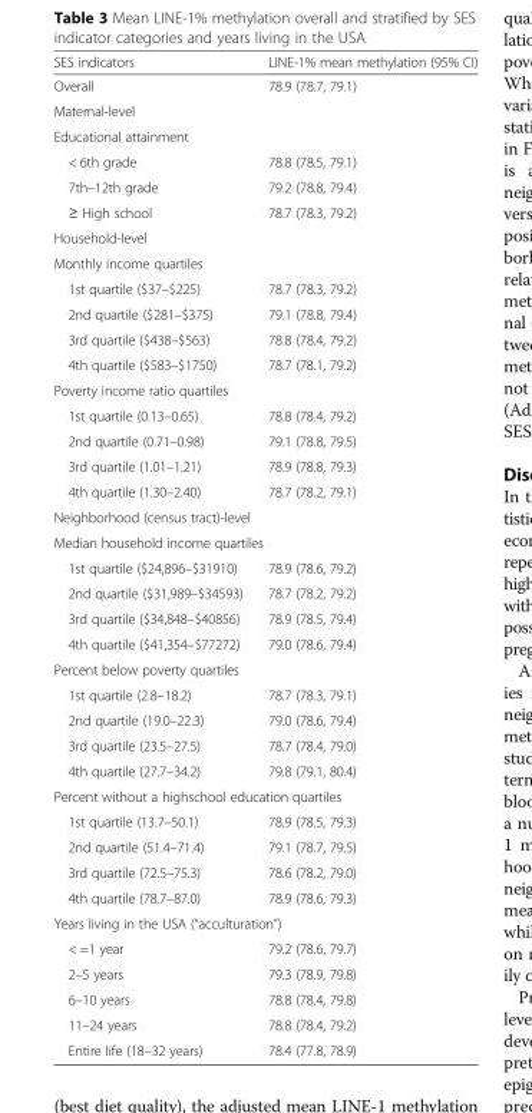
<table><thead><tr><td>SES indicators</td><td>LINE-1% mean methylation (95% CI)</td></tr></thead><tbody><tr><td>Overall</td><td>78.9 (78.7, 79.1)</td></tr><tr><td colspan="2">Maternal-level</td></tr><tr><td colspan="2">Educational attainment</td></tr><tr><td>&lt; 6th grade</td><td>78.8 (78.5, 79.1)</td></tr><tr><td>7th–12th grade</td><td>79.2 (78.8, 79.4)</td></tr><tr><td>≥ High school</td><td>78.7 (78.3, 79.2)</td></tr><tr><td colspan="2">Household-level</td></tr><tr><td colspan="2">Monthly income quartiles</td></tr><tr><td>1st quartile ($37–$225)</td><td>78.7 (78.3, 79.2)</td></tr><tr><td>2nd quartile ($281–$375)</td><td>79.1 (78.8, 79.4)</td></tr><tr><td>3rd quartile ($438–$563)</td><td>78.8 (78.4, 79.2)</td></tr><tr><td>4th quartile ($583–$1750)</td><td>78.7 (78.1, 79.2)</td></tr><tr><td colspan="2">Poverty income ratio quartiles</td></tr><tr><td>1st quartile (0.13–0.65)</td><td>78.8 (78.4, 79.2)</td></tr><tr><td>2nd quartile (0.71–0.98)</td><td>79.1 (78.8, 79.5)</td></tr><tr><td>3rd quartile (1.01–1.21)</td><td>78.9 (78.8, 79.3)</td></tr><tr><td>4th quartile (1.30–2.40)</td><td>78.7 (78.2, 79.1)</td></tr><tr><td colspan="2">Neighborhood (census tract)-level</td></tr><tr><td colspan="2">Median household income quartiles</td></tr><tr><td>1st quartile ($24,896–$31910)</td><td>78.9 (78.6, 79.2)</td></tr><tr><td>2nd quartile ($31,989–$34593)</td><td>78.7 (78.2, 79.2)</td></tr><tr><td>3rd quartile ($34,848–$40856)</td><td>78.9 (78.5, 79.4)</td></tr><tr><td>4th quartile ($41,354–$77272)</td><td>79.0 (78.6, 79.4)</td></tr><tr><td colspan="2">Percent below poverty quartiles</td></tr><tr><td>1st quartile (2.8–18.2)</td><td>78.7 (78.3, 79.1)</td></tr><tr><td>2nd quartile (19.0–22.3)</td><td>79.0 (78.6, 79.4)</td></tr><tr><td>3rd quartile (23.5–27.5)</td><td>78.7 (78.4, 79.0)</td></tr><tr><td>4th quartile (27.7–34.2)</td><td>79.8 (79.1, 80.4)</td></tr><tr><td colspan="2">Percent without a highschool education quartiles</td></tr><tr><td>1st quartile (13.7–50.1)</td><td>78.9 (78.5, 79.3)</td></tr><tr><td>2nd quartile (51.4–71.4)</td><td>79.1 (78.7, 79.5)</td></tr><tr><td>3rd quartile (72.5–75.3)</td><td>78.6 (78.2, 79.0)</td></tr><tr><td>4th quartile (78.7–87.0)</td><td>78.9 (78.6, 79.3)</td></tr><tr><td colspan="2">Years living in the USA (“acculturation”)</td></tr><tr><td>&lt; =1 year</td><td>79.2 (78.6, 79.7)</td></tr><tr><td>2–5 years</td><td>79.3 (78.9, 79.8)</td></tr><tr><td>6–10 years</td><td>78.8 (78.4, 79.8)</td></tr><tr><td>11–24 years</td><td>78.8 (78.4, 79.2)</td></tr><tr><td>Entire life (18–32 years)</td><td>78.4 (77.8, 78.9)</td></tr></tbody></table>